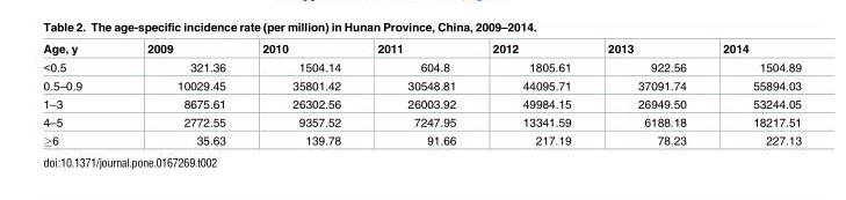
<table><thead><tr><td>Age, y</td><td>2009</td><td>2010</td><td>2011</td><td>2012</td><td>2013</td><td>2014</td></tr></thead><tbody><tr><td>&lt;0.5</td><td>321.36</td><td>1504.14</td><td>604.8</td><td>1805.61</td><td>922.56</td><td>1504.89</td></tr><tr><td>0.5–0.9</td><td>10029.45</td><td>35801.42</td><td>30548.81</td><td>44095.71</td><td>37091.74</td><td>55894.03</td></tr><tr><td>1–3</td><td>8675.61</td><td>26302.56</td><td>26003.92</td><td>49984.15</td><td>26949.50</td><td>53244.05</td></tr><tr><td>4–5</td><td>2772.55</td><td>9357.52</td><td>7247.95</td><td>13341.59</td><td>6188.18</td><td>18217.51</td></tr><tr><td>≥6</td><td>35.63</td><td>139.78</td><td>91.66</td><td>217.19</td><td>78.23</td><td>227.13</td></tr></tbody></table>